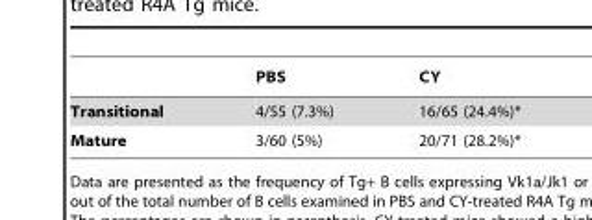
<table><thead><tr><td></td><td>PBS</td><td>CY</td></tr></thead><tbody><tr><td>Transitional</td><td>4/55 (7.3%)</td><td>16/65 (24.4%)*</td></tr><tr><td>Mature</td><td>3/60 (5%)</td><td>20/71 (28.2%)*</td></tr></tbody></table>